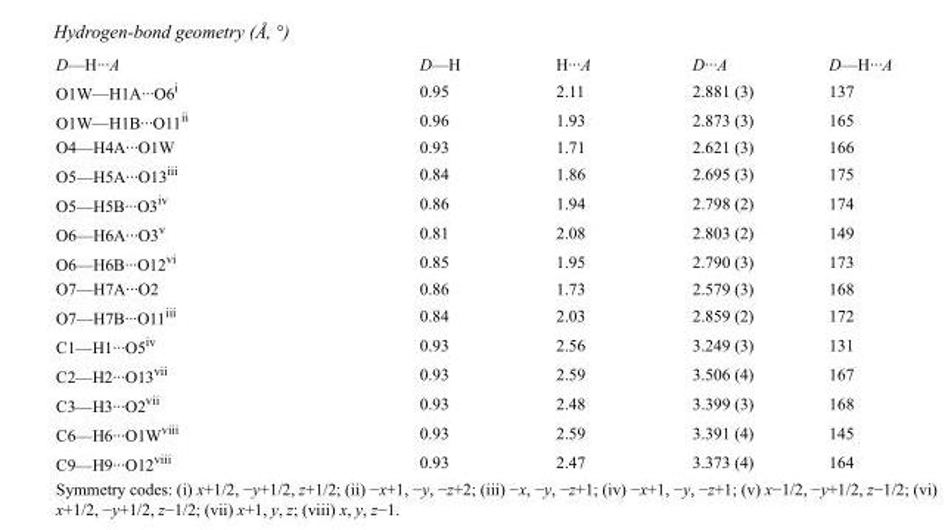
<table><tbody><tr><td>D—H···A</td><td>D—H</td><td>H···A</td><td>D···A</td><td>D—H···A</td></tr><tr><td>O1W—H1A···O6<sup>i</sup></td><td>0.95</td><td>2.11</td><td>2.881 (3)</td><td>137</td></tr><tr><td>O1W—H1B···O11<sup>ii</sup></td><td>0.96</td><td>1.93</td><td>2.873 (3)</td><td>165</td></tr><tr><td>O4—H4A···O1W</td><td>0.93</td><td>1.71</td><td>2.621 (3)</td><td>166</td></tr><tr><td>O5—H5A···O13<sup>iii</sup></td><td>0.84</td><td>1.86</td><td>2.695 (3)</td><td>175</td></tr><tr><td>O5—H5B···O3<sup>iv</sup></td><td>0.86</td><td>1.94</td><td>2.798 (2)</td><td>174</td></tr><tr><td>O6—H6A···O3<sup>v</sup></td><td>0.81</td><td>2.08</td><td>2.803 (2)</td><td>149</td></tr><tr><td>O6—H6B···O12<sup>vi</sup></td><td>0.85</td><td>1.95</td><td>2.790 (3)</td><td>173</td></tr><tr><td>O7—H7A···O2</td><td>0.86</td><td>1.73</td><td>2.579 (3)</td><td>168</td></tr><tr><td>O7—H7B···O11<sup>iii</sup></td><td>0.84</td><td>2.03</td><td>2.859 (2)</td><td>172</td></tr><tr><td>C1—H1···O5<sup>iv</sup></td><td>0.93</td><td>2.56</td><td>3.249 (3)</td><td>131</td></tr><tr><td>C2—H2···O13<sup>vii</sup></td><td>0.93</td><td>2.59</td><td>3.506 (4)</td><td>167</td></tr><tr><td>C3—H3···O2<sup>vii</sup></td><td>0.93</td><td>2.48</td><td>3.399 (3)</td><td>168</td></tr><tr><td>C6—H6···O1W<sup>viii</sup></td><td>0.93</td><td>2.59</td><td>3.391 (4)</td><td>145</td></tr><tr><td>C9—H9···O12<sup>viii</sup></td><td>0.93</td><td>2.47</td><td>3.373 (4)</td><td>164</td></tr></tbody></table>